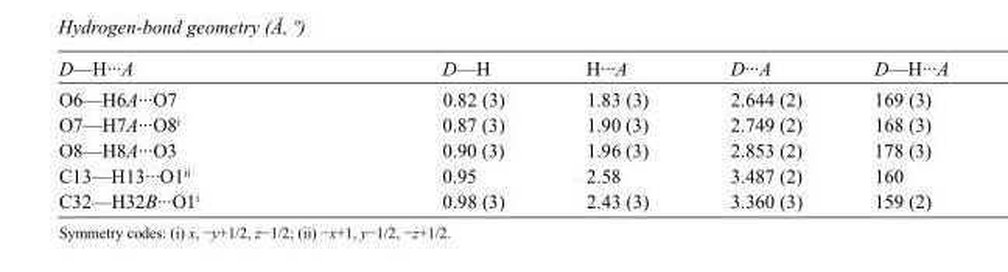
<table><tbody><tr><td>D—H···A</td><td>D—H</td><td>H···A</td><td>D···A</td><td>D—H···A</td></tr><tr><td>O6—H6A···O7</td><td>0.82 (3)</td><td>1.83 (3)</td><td>2.644 (2)</td><td>169 (3)</td></tr><tr><td>O7—H7A···O8<sup>i</sup></td><td>0.87 (3)</td><td>1.90 (3)</td><td>2.749 (2)</td><td>168 (3)</td></tr><tr><td>O8—H8A···O3</td><td>0.90 (3)</td><td>1.96 (3)</td><td>2.853 (2)</td><td>178 (3)</td></tr><tr><td>C13—H13···O1<sup>ii</sup></td><td>0.95</td><td>2.58</td><td>3.487 (2)</td><td>160</td></tr><tr><td>C32—H32B···O1<sup>i</sup></td><td>0.98 (3)</td><td>2.43 (3)</td><td>3.360 (3)</td><td>159 (2)</td></tr></tbody></table>